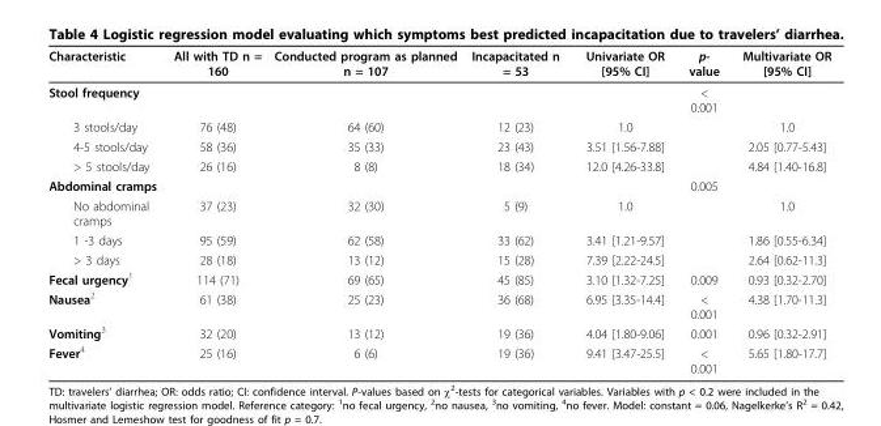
<table><thead><tr><td>Characteristic</td><td>All with TD n = 160</td><td>Conducted program as planned n = 107</td><td>Incapacitated n = 53</td><td>Univariate OR [95% CI]</td><td>p- value</td><td>Multivariate OR [95% CI]</td></tr></thead><tbody><tr><td>Stool frequency</td><td></td><td></td><td></td><td></td><td>&lt; 0.001</td><td></td></tr><tr><td>3 stools/day</td><td>76 (48)</td><td>64 (60)</td><td>12 (23)</td><td>1.0</td><td></td><td>1.0</td></tr><tr><td>4-5 stools/day</td><td>58 (36)</td><td>35 (33)</td><td>23 (43)</td><td>3.51 [1.56-7.88]</td><td></td><td>2.05 [0.77-5.43]</td></tr><tr><td>&gt; 5 stools/day</td><td>26 (16)</td><td>8 (8)</td><td>18 (34)</td><td>12.0 [4.26-33.8]</td><td></td><td>4.84 [1.40-16.8]</td></tr><tr><td>Abdominal cramps</td><td></td><td></td><td></td><td></td><td>0.005</td><td></td></tr><tr><td>No abdominal cramps</td><td>37 (23)</td><td>32 (30)</td><td>5 (9)</td><td>1.0</td><td></td><td>1.0</td></tr><tr><td>1 -3 days</td><td>95 (59)</td><td>62 (58)</td><td>33 (62)</td><td>3.41 [1.21-9.57]</td><td></td><td>1.86 [0.55-6.34]</td></tr><tr><td>&gt; 3 days</td><td>28 (18)</td><td>13 (12)</td><td>15 (28)</td><td>7.39 [2.22-24.5]</td><td></td><td>2.64 [0.62-11.3]</td></tr><tr><td>Fecal urgency<sup>1</sup></td><td>114 (71)</td><td>69 (65)</td><td>45 (85)</td><td>3.10 [1.32-7.25]</td><td>0.009</td><td>0.93 [0.32-2.70]</td></tr><tr><td>Nausea<sup>2</sup></td><td>61 (38)</td><td>25 (23)</td><td>36 (68)</td><td>6.95 [3.35-14.4]</td><td>&lt; 0.001</td><td>4.38 [1.70-11.3]</td></tr><tr><td>Vomiting<sup>3</sup></td><td>32 (20)</td><td>13 (12)</td><td>19 (36)</td><td>4.04 [1.80-9.06]</td><td>0.001</td><td>0.96 [0.32-2.91]</td></tr><tr><td>Fever<sup>4</sup></td><td>25 (16)</td><td>6 (6)</td><td>19 (36)</td><td>9.41 [3.47-25.5]</td><td>&lt; 0.001</td><td>5.65 [1.80-17.7]</td></tr></tbody></table>